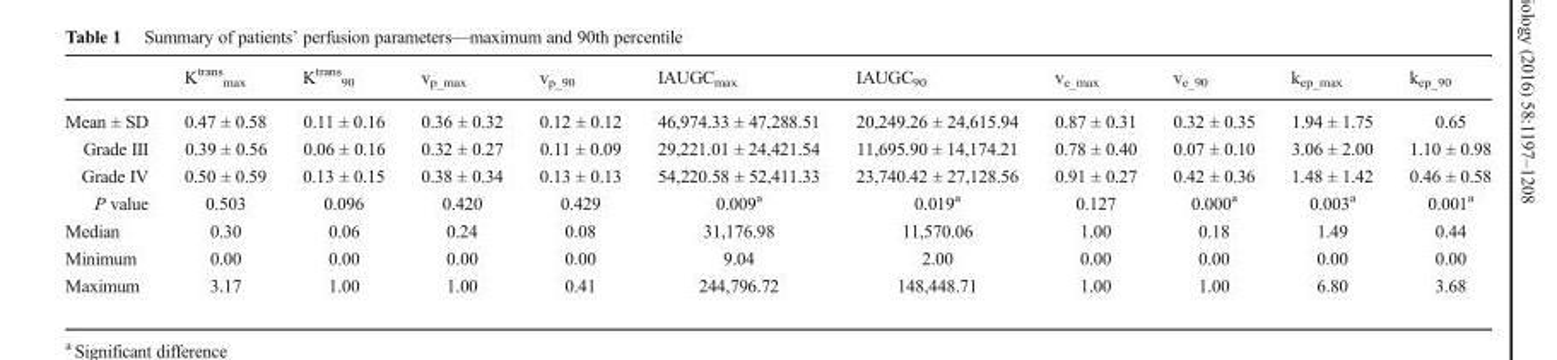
<table><thead><tr><td></td><td>K<sup>trans</sup> <sub>max</sub></td><td>K<sup>trans</sup> <sub>90</sub></td><td>v<sub>p_max</sub></td><td>v<sub>p_90</sub></td><td>IAUGC<sub>max</sub></td><td>IAUGC<sub>90</sub></td><td>v<sub>e_max</sub></td><td>v<sub>e_90</sub></td><td>k<sub>ep_max</sub></td><td>k<sub>ep_90</sub></td></tr></thead><tbody><tr><td>Mean ± SD</td><td>0.47 ± 0.58</td><td>0.11 ± 0.16</td><td>0.36 ± 0.32</td><td>0.12 ± 0.12</td><td>46,974.33 ± 47,288.51</td><td>20,249.26 ± 24,615.94</td><td>0.87 ± 0.31</td><td>0.32 ± 0.35</td><td>1.94 ± 1.75</td><td>0.65</td></tr><tr><td>Grade III</td><td>0.39 ± 0.56</td><td>0.06 ± 0.16</td><td>0.32 ± 0.27</td><td>0.11 ± 0.09</td><td>29,221.01 ± 24,421.54</td><td>11,695.90 ± 14,174.21</td><td>0.78 ± 0.40</td><td>0.07 ± 0.10</td><td>3.06 ± 2.00</td><td>1.10 ± 0.98</td></tr><tr><td>Grade IV</td><td>0.50 ± 0.59</td><td>0.13 ± 0.15</td><td>0.38 ± 0.34</td><td>0.13 ± 0.13</td><td>54,220.58 ± 52,411.33</td><td>23,740.42 ± 27,128.56</td><td>0.91 ± 0.27</td><td>0.42 ± 0.36</td><td>1.48 ± 1.42</td><td>0.46 ± 0.58</td></tr><tr><td>P value</td><td>0.503</td><td>0.096</td><td>0.420</td><td>0.429</td><td>0.009<sup>a</sup></td><td>0.019<sup>a</sup></td><td>0.127</td><td>0.000<sup>a</sup></td><td>0.003<sup>a</sup></td><td>0.001<sup>a</sup></td></tr><tr><td>Median</td><td>0.30</td><td>0.06</td><td>0.24</td><td>0.08</td><td>31,176.98</td><td>11,570.06</td><td>1.00</td><td>0.18</td><td>1.49</td><td>0.44</td></tr><tr><td>Minimum</td><td>0.00</td><td>0.00</td><td>0.00</td><td>0.00</td><td>9.04</td><td>2.00</td><td>0.00</td><td>0.00</td><td>0.00</td><td>0.00</td></tr><tr><td>Maximum</td><td>3.17</td><td>1.00</td><td>1.00</td><td>0.41</td><td>244,796.72</td><td>148,448.71</td><td>1.00</td><td>1.00</td><td>6.80</td><td>3.68</td></tr></tbody></table>